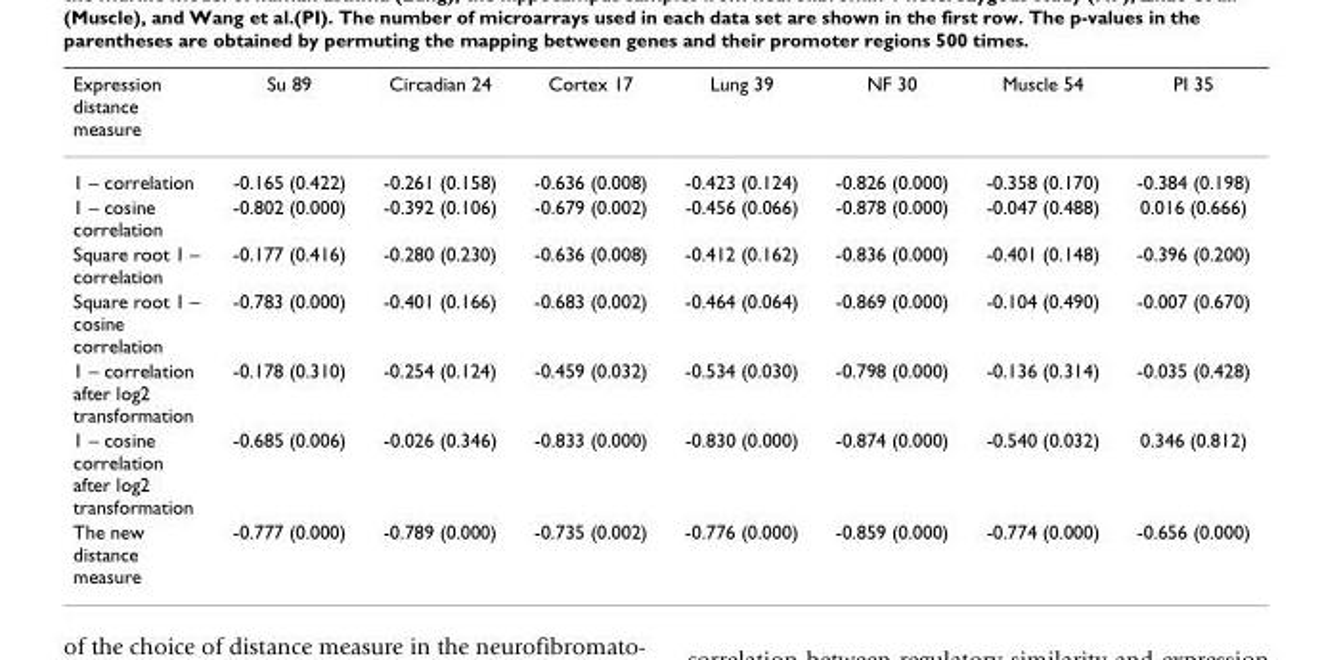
<table><thead><tr><td>Expression distance measure</td><td>Su 89</td><td>Circadian 24</td><td>Cortex 17</td><td>Lung 39</td><td>NF 30</td><td>Muscle 54</td><td>PI 35</td></tr></thead><tbody><tr><td>1 – correlation</td><td>-0.165 (0.422)</td><td>-0.261 (0.158)</td><td>-0.636 (0.008)</td><td>-0.423 (0.124)</td><td>-0.826 (0.000)</td><td>-0.358 (0.170)</td><td>-0.384 (0.198)</td></tr><tr><td>1 – cosine correlation</td><td>-0.802 (0.000)</td><td>-0.392 (0.106)</td><td>-0.679 (0.002)</td><td>-0.456 (0.066)</td><td>-0.878 (0.000)</td><td>-0.047 (0.488)</td><td>0.016 (0.666)</td></tr><tr><td>Square root 1 – correlation</td><td>-0.177 (0.416)</td><td>-0.280 (0.230)</td><td>-0.636 (0.008)</td><td>-0.412 (0.162)</td><td>-0.836 (0.000)</td><td>-0.401 (0.148)</td><td>-0.396 (0.200)</td></tr><tr><td>Square root 1 – cosine correlation</td><td>-0.783 (0.000)</td><td>-0.401 (0.166)</td><td>-0.683 (0.002)</td><td>-0.464 (0.064)</td><td>-0.869 (0.000)</td><td>-0.104 (0.490)</td><td>-0.007 (0.670)</td></tr><tr><td>1 – correlation after log2 transformation</td><td>-0.178 (0.310)</td><td>-0.254 (0.124)</td><td>-0.459 (0.032)</td><td>-0.534 (0.030)</td><td>-0.798 (0.000)</td><td>-0.136 (0.314)</td><td>-0.035 (0.428)</td></tr><tr><td>1 – cosine correlation after log2 transformation</td><td>-0.685 (0.006)</td><td>-0.026 (0.346)</td><td>-0.833 (0.000)</td><td>-0.830 (0.000)</td><td>-0.874 (0.000)</td><td>-0.540 (0.032)</td><td>0.346 (0.812)</td></tr><tr><td>The new distance measure</td><td>-0.777 (0.000)</td><td>-0.789 (0.000)</td><td>-0.735 (0.002)</td><td>-0.776 (0.000)</td><td>-0.859 (0.000)</td><td>-0.774 (0.000)</td><td>-0.656 (0.000)</td></tr></tbody></table>